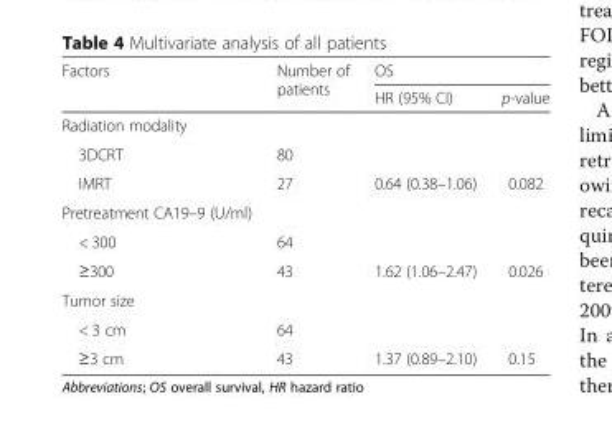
<table><thead><tr><td rowspan="2">Factors</td><td rowspan="2">Number of patients</td><td colspan="2">OS</td></tr><tr><td>HR (95% CI)</td><td>p-value</td></tr></thead><tbody><tr><td colspan="4">Radiation modality</td></tr><tr><td>3DCRT</td><td>80</td><td></td><td></td></tr><tr><td>IMRT</td><td>27</td><td>0.64 (0.38–1.06)</td><td>0.082</td></tr><tr><td colspan="4">Pretreatment CA19–9 (U/ml)</td></tr><tr><td>&lt; 300</td><td>64</td><td></td><td></td></tr><tr><td>≥300</td><td>43</td><td>1.62 (1.06–2.47)</td><td>0.026</td></tr><tr><td colspan="4">Tumor size</td></tr><tr><td>&lt; 3 cm</td><td>64</td><td></td><td></td></tr><tr><td>≥3 cm</td><td>43</td><td>1.37 (0.89–2.10)</td><td>0.15</td></tr></tbody></table>